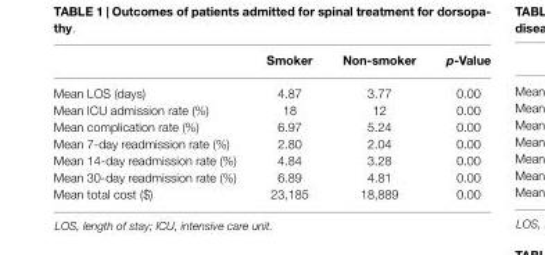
<table><thead><tr><td></td><td>Smoker</td><td>Non-smoker</td><td>p-Value</td></tr></thead><tbody><tr><td>Mean LOS (days)</td><td>4.87</td><td>3.77</td><td>0.00</td></tr><tr><td>Mean ICU admission rate (%)</td><td>18</td><td>12</td><td>0.00</td></tr><tr><td>Mean complication rate (%)</td><td>6.97</td><td>5.24</td><td>0.00</td></tr><tr><td>Mean 7-day readmission rate (%)</td><td>2.80</td><td>2.04</td><td>0.00</td></tr><tr><td>Mean 14-day readmission rate (%)</td><td>4.84</td><td>3.28</td><td>0.00</td></tr><tr><td>Mean 30-day readmission rate (%)</td><td>6.89</td><td>4.81</td><td>0.00</td></tr><tr><td>Mean total cost ($)</td><td>23,185</td><td>18,889</td><td>0.00</td></tr></tbody></table>